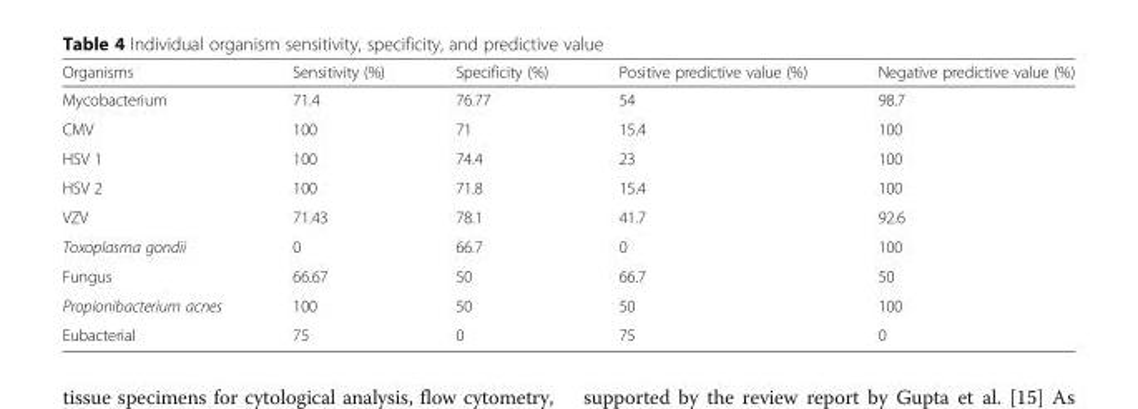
<table><thead><tr><td>Organisms</td><td>Sensitivity (%)</td><td>Specificity (%)</td><td>Positive predictive value (%)</td><td>Negative predictive value (%)</td></tr></thead><tbody><tr><td>Mycobacterium</td><td>71.4</td><td>76.77</td><td>54</td><td>98.7</td></tr><tr><td>CMV</td><td>100</td><td>71</td><td>15.4</td><td>100</td></tr><tr><td>HSV 1</td><td>100</td><td>74.4</td><td>23</td><td>100</td></tr><tr><td>HSV 2</td><td>100</td><td>71.8</td><td>15.4</td><td>100</td></tr><tr><td>VZV</td><td>71.43</td><td>78.1</td><td>41.7</td><td>92.6</td></tr><tr><td>Toxoplasma gondii</td><td>0</td><td>66.7</td><td>0</td><td>100</td></tr><tr><td>Fungus</td><td>66.67</td><td>50</td><td>66.7</td><td>50</td></tr><tr><td>Propionibacterium acnes</td><td>100</td><td>50</td><td>50</td><td>100</td></tr><tr><td>Eubacterial</td><td>75</td><td>0</td><td>75</td><td>0</td></tr></tbody></table>